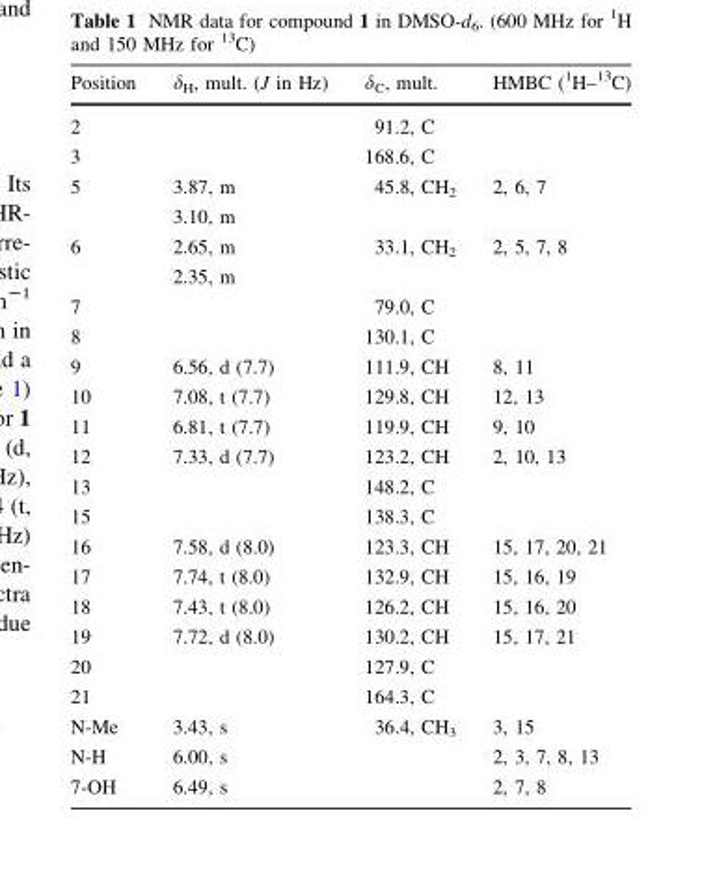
<table><thead><tr><td>Position</td><td>δ<sub>H</sub>, mult. (J in Hz)</td><td>δ<sub>C</sub>, mult.</td><td>HMBC (<sup>1</sup>H–<sup>13</sup>C)</td></tr></thead><tbody><tr><td>2</td><td></td><td>91.2, C</td><td></td></tr><tr><td>3</td><td></td><td>168.6, C</td><td></td></tr><tr><td>5</td><td>3.87, m 3.10, m</td><td>45.8, CH<sub>2</sub></td><td>2, 6, 7</td></tr><tr><td>6</td><td>2.65, m 2.35, m</td><td>33.1, CH<sub>2</sub></td><td>2, 5, 7, 8</td></tr><tr><td>7</td><td></td><td>79.0, C</td><td></td></tr><tr><td>8</td><td></td><td>130.1, C</td><td></td></tr><tr><td>9</td><td>6.56, d (7.7)</td><td>111.9, CH</td><td>8, 11</td></tr><tr><td>10</td><td>7.08, t (7.7)</td><td>129.8, CH</td><td>12, 13</td></tr><tr><td>11</td><td>6.81, t (7.7)</td><td>119.9, CH</td><td>9, 10</td></tr><tr><td>12</td><td>7.33, d (7.7)</td><td>123.2, CH</td><td>2, 10, 13</td></tr><tr><td>13</td><td></td><td>148.2, C</td><td></td></tr><tr><td>15</td><td></td><td>138.3, C</td><td></td></tr><tr><td>16</td><td>7.58, d (8.0)</td><td>123.3, CH</td><td>15, 17, 20, 21</td></tr><tr><td>17</td><td>7.74, t (8.0)</td><td>132.9, CH</td><td>15, 16, 19</td></tr><tr><td>18</td><td>7.43, t (8.0)</td><td>126.2, CH</td><td>15, 16, 20</td></tr><tr><td>19</td><td>7.72, d (8.0)</td><td>130.2, CH</td><td>15, 17, 21</td></tr><tr><td>20</td><td></td><td>127.9, C</td><td></td></tr><tr><td>21</td><td></td><td>164.3, C</td><td></td></tr><tr><td>N-Me</td><td>3.43, s</td><td>36.4, CH<sub>3</sub></td><td>3, 15</td></tr><tr><td>N-H</td><td>6.00, s</td><td></td><td>2, 3, 7, 8, 13</td></tr><tr><td>7-OH</td><td>6.49, s</td><td></td><td>2, 7, 8</td></tr></tbody></table>